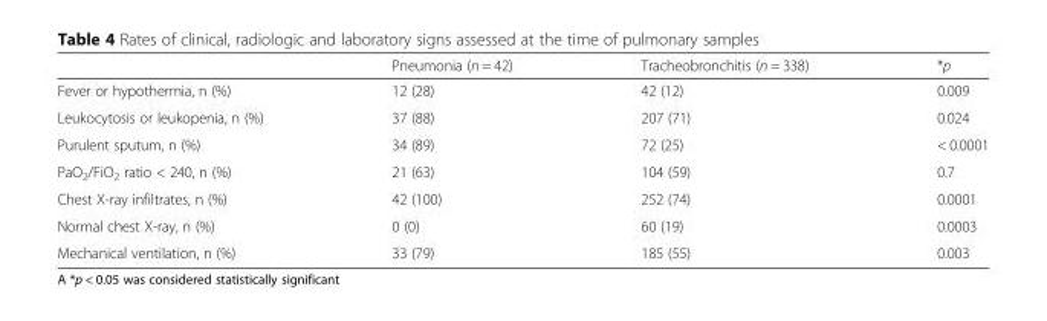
<table><thead><tr><td></td><td>Pneumonia (n = 42)</td><td>Tracheobronchitis (n = 338)</td><td>*p</td></tr></thead><tbody><tr><td>Fever or hypothermia, n (%)</td><td>12 (28)</td><td>42 (12)</td><td>0.009</td></tr><tr><td>Leukocytosis or leukopenia, n (%)</td><td>37 (88)</td><td>207 (71)</td><td>0.024</td></tr><tr><td>Purulent sputum, n (%)</td><td>34 (89)</td><td>72 (25)</td><td>&lt; 0.0001</td></tr><tr><td>PaO<sub>2</sub>/FiO<sub>2</sub> ratio &lt; 240, n (%)</td><td>21 (63)</td><td>104 (59)</td><td>0.7</td></tr><tr><td>Chest X-ray infiltrates, n (%)</td><td>42 (100)</td><td>252 (74)</td><td>0.0001</td></tr><tr><td>Normal chest X-ray, n (%)</td><td>0 (0)</td><td>60 (19)</td><td>0.0003</td></tr><tr><td>Mechanical ventilation, n (%)</td><td>33 (79)</td><td>185 (55)</td><td>0.003</td></tr></tbody></table>